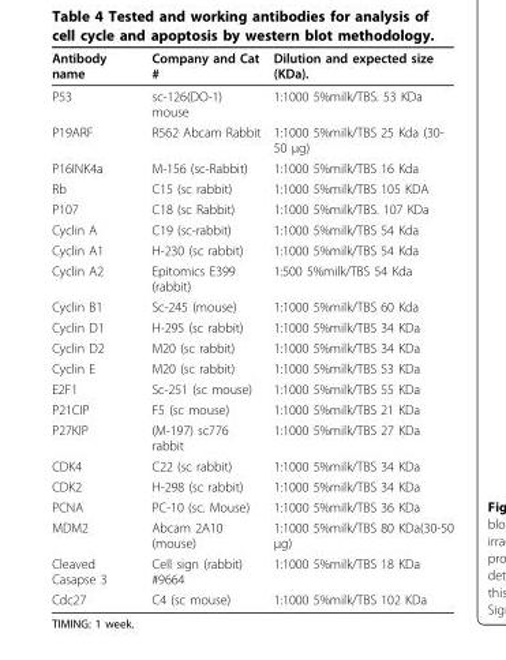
<table><thead><tr><td>Antibody name</td><td>Company and Cat #</td><td>Dilution and expected size (KDa).</td></tr></thead><tbody><tr><td>P53</td><td>sc-126(DO-1) mouse</td><td>1:1000 5%milk/TBS. 53 KDa</td></tr><tr><td>P19ARF</td><td>R562 Abcam Rabbit</td><td>1:1000 5%milk/TBS 25 Kda (30- 50 μg)</td></tr><tr><td>P16INK4a</td><td>M-156 (sc-Rabbit)</td><td>1:1000 5%milk/TBS 16 Kda</td></tr><tr><td>Rb</td><td>C15 (sc rabbit)</td><td>1:1000 5%milk/TBS 105 KDA</td></tr><tr><td>P107</td><td>C18 (sc Rabbit)</td><td>1:1000 5%milk/TBS. 107 KDa</td></tr><tr><td>Cyclin A</td><td>C19 (sc-rabbit)</td><td>1:1000 5%milk/TBS 54 Kda</td></tr><tr><td>Cyclin A1</td><td>H-230 (sc rabbit)</td><td>1:1000 5%milk/TBS 54 Kda</td></tr><tr><td>Cyclin A2</td><td>Epitomics E399 (rabbit)</td><td>1:500 5%milk/TBS 54 Kda</td></tr><tr><td>Cyclin B1</td><td>Sc-245 (mouse)</td><td>1:1000 5%milk/TBS 60 Kda</td></tr><tr><td>Cyclin D1</td><td>H-295 (sc rabbit)</td><td>1:1000 5%milk/TBS 34 KDa</td></tr><tr><td>Cyclin D2</td><td>M20 (sc rabbit)</td><td>1:1000 5%milk/TBS 34 KDa</td></tr><tr><td>Cyclin E</td><td>M20 (sc rabbit)</td><td>1:1000 5%milk/TBS 53 KDa</td></tr><tr><td>E2F1</td><td>Sc-251 (sc mouse)</td><td>1:1000 5%milk/TBS 55 KDa</td></tr><tr><td>P21CIP</td><td>F5 (sc mouse)</td><td>1:1000 5%milk/TBS 21 KDa</td></tr><tr><td>P27KIP</td><td>(M-197) sc776 rabbit</td><td>1:1000 5%milk/TBS 27 KDa</td></tr><tr><td>CDK4</td><td>C22 (sc rabbit)</td><td>1:1000 5%milk/TBS 34 KDa</td></tr><tr><td>CDK2</td><td>H-298 (sc rabbit)</td><td>1:1000 5%milk/TBS 34 KDa</td></tr><tr><td>PCNA</td><td>PC-10 (sc. Mouse)</td><td>1:1000 5%milk/TBS 36 KDa</td></tr><tr><td>MDM2</td><td>Abcam 2A10 (mouse)</td><td>1:1000 5%milk/TBS 80 KDa(30-50 μg)</td></tr><tr><td>Cleaved Casapse 3</td><td>Cell sign (rabbit) #9664</td><td>1:1000 5%milk/TBS 18 KDa</td></tr><tr><td>Cdc27</td><td>C4 (sc mouse)</td><td>1:1000 5%milk/TBS 102 KDa</td></tr></tbody></table>